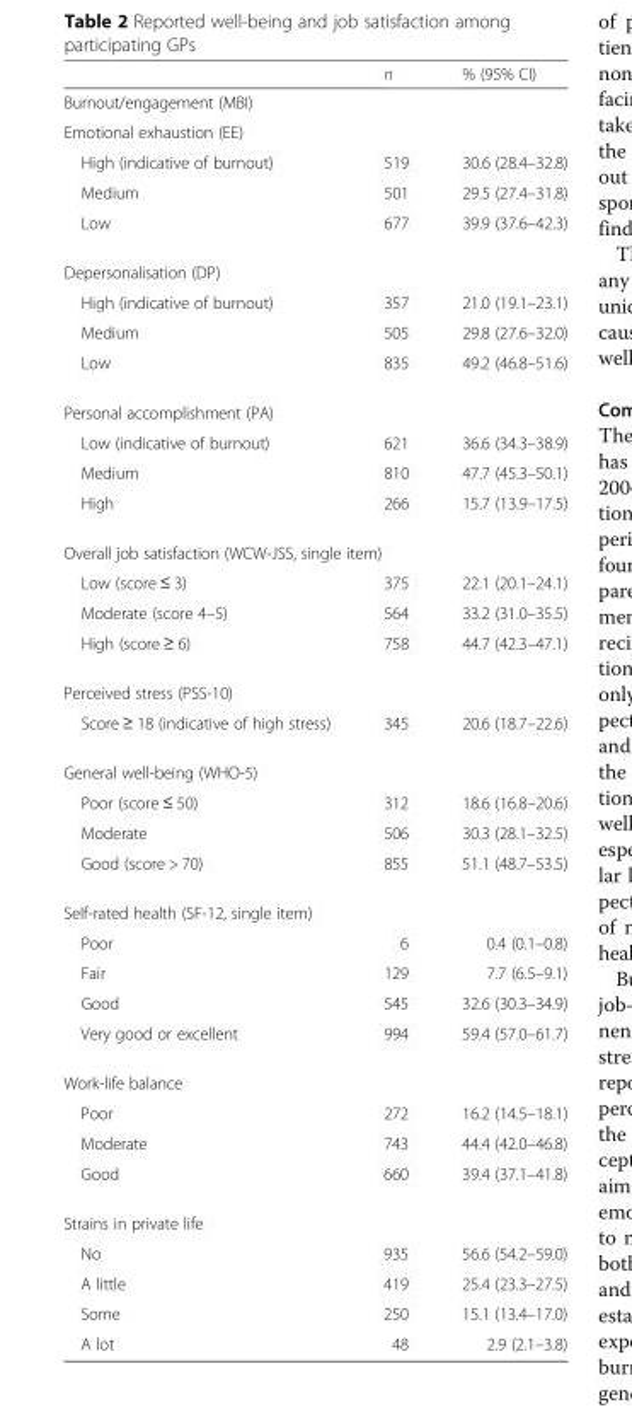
<table><thead><tr><td></td><td>n</td><td>% (95% CI)</td></tr></thead><tbody><tr><td colspan="3">Burnout/engagement (MBI)</td></tr><tr><td colspan="3">Emotional exhaustion (EE)</td></tr><tr><td>High (indicative of burnout)</td><td>519</td><td>30.6 (28.4–32.8)</td></tr><tr><td>Medium</td><td>501</td><td>29.5 (27.4–31.8)</td></tr><tr><td>Low</td><td>677</td><td>39.9 (37.6–42.3)</td></tr><tr><td colspan="3">Depersonalisation (DP)</td></tr><tr><td>High (indicative of burnout)</td><td>357</td><td>21.0 (19.1–23.1)</td></tr><tr><td>Medium</td><td>505</td><td>29.8 (27.6–32.0)</td></tr><tr><td>Low</td><td>835</td><td>49.2 (46.8–51.6)</td></tr><tr><td colspan="3">Personal accomplishment (PA)</td></tr><tr><td>Low (indicative of burnout)</td><td>621</td><td>36.6 (34.3–38.9)</td></tr><tr><td>Medium</td><td>810</td><td>47.7 (45.3–50.1)</td></tr><tr><td>High</td><td>266</td><td>15.7 (13.9–17.5)</td></tr><tr><td colspan="3">Overall job satisfaction (WCW-JSS, single item)</td></tr><tr><td>Low (score ≤ 3)</td><td>375</td><td>22.1 (20.1–24.1)</td></tr><tr><td>Moderate (score 4–5)</td><td>564</td><td>33.2 (31.0–35.5)</td></tr><tr><td>High (score ≥ 6)</td><td>758</td><td>44.7 (42.3–47.1)</td></tr><tr><td colspan="3">Perceived stress (PSS-10)</td></tr><tr><td>Score ≥ 18 (indicative of high stress)</td><td>345</td><td>20.6 (18.7–22.6)</td></tr><tr><td colspan="3">General well-being (WHO-5)</td></tr><tr><td>Poor (score ≤ 50)</td><td>312</td><td>18.6 (16.8–20.6)</td></tr><tr><td>Moderate</td><td>506</td><td>30.3 (28.1–32.5)</td></tr><tr><td>Good (score &gt; 70)</td><td>855</td><td>51.1 (48.7–53.5)</td></tr><tr><td colspan="3">Self-rated health (SF-12, single item)</td></tr><tr><td>Poor</td><td>6</td><td>0.4 (0.1–0.8)</td></tr><tr><td>Fair</td><td>129</td><td>7.7 (6.5–9.1)</td></tr><tr><td>Good</td><td>545</td><td>32.6 (30.3–34.9)</td></tr><tr><td>Very good or excellent</td><td>994</td><td>59.4 (57.0–61.7)</td></tr><tr><td colspan="3">Work-life balance</td></tr><tr><td>Poor</td><td>272</td><td>16.2 (14.5–18.1)</td></tr><tr><td>Moderate</td><td>743</td><td>44.4 (42.0–46.8)</td></tr><tr><td>Good</td><td>660</td><td>39.4 (37.1–41.8)</td></tr><tr><td colspan="3">Strains in private life</td></tr><tr><td>No</td><td>935</td><td>56.6 (54.2–59.0)</td></tr><tr><td>A little</td><td>419</td><td>25.4 (23.3–27.5)</td></tr><tr><td>Some</td><td>250</td><td>15.1 (13.4–17.0)</td></tr><tr><td>A lot</td><td>48</td><td>2.9 (2.1–3.8)</td></tr></tbody></table>